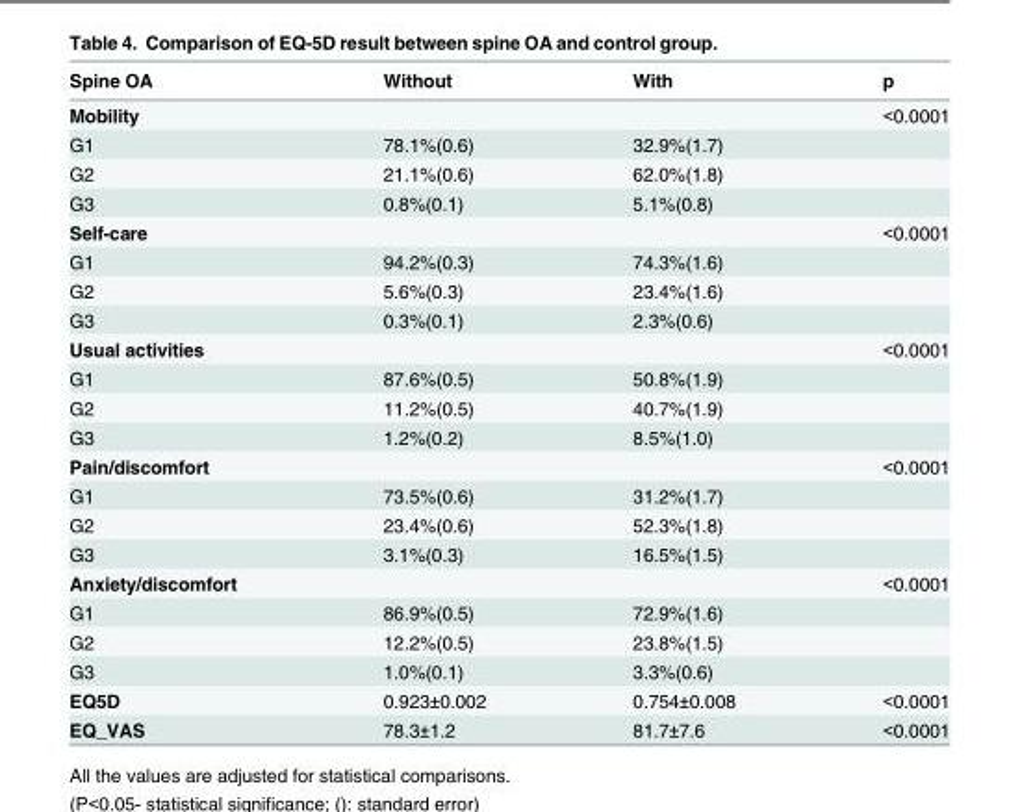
<table><thead><tr><td>Spine OA</td><td>Without</td><td>With</td><td>p</td></tr></thead><tbody><tr><td>Mobility</td><td></td><td></td><td>&lt;0.0001</td></tr><tr><td>G1</td><td>78.1%(0.6)</td><td>32.9%(1.7)</td><td></td></tr><tr><td>G2</td><td>21.1%(0.6)</td><td>62.0%(1.8)</td><td></td></tr><tr><td>G3</td><td>0.8%(0.1)</td><td>5.1%(0.8)</td><td></td></tr><tr><td>Self-care</td><td></td><td></td><td>&lt;0.0001</td></tr><tr><td>G1</td><td>94.2%(0.3)</td><td>74.3%(1.6)</td><td></td></tr><tr><td>G2</td><td>5.6%(0.3)</td><td>23.4%(1.6)</td><td></td></tr><tr><td>G3</td><td>0.3%(0.1)</td><td>2.3%(0.6)</td><td></td></tr><tr><td>Usual activities</td><td></td><td></td><td>&lt;0.0001</td></tr><tr><td>G1</td><td>87.6%(0.5)</td><td>50.8%(1.9)</td><td></td></tr><tr><td>G2</td><td>11.2%(0.5)</td><td>40.7%(1.9)</td><td></td></tr><tr><td>G3</td><td>1.2%(0.2)</td><td>8.5%(1.0)</td><td></td></tr><tr><td>Pain/discomfort</td><td></td><td></td><td>&lt;0.0001</td></tr><tr><td>G1</td><td>73.5%(0.6)</td><td>31.2%(1.7)</td><td></td></tr><tr><td>G2</td><td>23.4%(0.6)</td><td>52.3%(1.8)</td><td></td></tr><tr><td>G3</td><td>3.1%(0.3)</td><td>16.5%(1.5)</td><td></td></tr><tr><td>Anxiety/discomfort</td><td></td><td></td><td>&lt;0.0001</td></tr><tr><td>G1</td><td>86.9%(0.5)</td><td>72.9%(1.6)</td><td></td></tr><tr><td>G2</td><td>12.2%(0.5)</td><td>23.8%(1.5)</td><td></td></tr><tr><td>G3</td><td>1.0%(0.1)</td><td>3.3%(0.6)</td><td></td></tr><tr><td>EQ5D</td><td>0.923±0.002</td><td>0.754±0.008</td><td>&lt;0.0001</td></tr><tr><td>EQ_VAS</td><td>78.3±1.2</td><td>81.7±7.6</td><td>&lt;0.0001</td></tr></tbody></table>